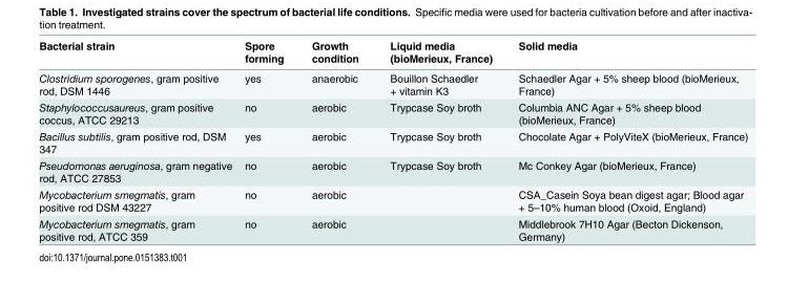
<table><thead><tr><td>Bacterial strain</td><td>Spore forming</td><td>Growth condition</td><td>Liquid media (bioMerieux, France)</td><td>Solid media</td></tr></thead><tbody><tr><td>Clostridium sporogenes, gram positive rod, DSM 1446</td><td>yes</td><td>anaerobic</td><td>Bouillon Schaedler + vitamin K3</td><td>Schaedler Agar + 5% sheep blood (bioMerieux, France)</td></tr><tr><td>Staphylococcusaureus, gram positive coccus, ATCC 29213</td><td>no</td><td>aerobic</td><td>Trypcase Soy broth</td><td>Columbia ANC Agar + 5% sheep blood (bioMerieux, France)</td></tr><tr><td>Bacillus subtilis, gram positive rod, DSM 347</td><td>yes</td><td>aerobic</td><td>Trypcase Soy broth</td><td>Chocolate Agar + PolyViteX (bioMerieux, France)</td></tr><tr><td>Pseudomonas aeruginosa, gram negative rod, ATCC 27853</td><td>no</td><td>aerobic</td><td>Trypcase Soy broth</td><td>Mc Conkey Agar (bioMerieux, France)</td></tr><tr><td>Mycobacterium smegmatis, gram positive rod DSM 43227</td><td>no</td><td>aerobic</td><td></td><td>CSA_Casein Soya bean digest agar; Blood agar + 5–10% human blood (Oxoid, England)</td></tr><tr><td>Mycobacterium smegmatis, gram positive rod, ATCC 359</td><td>no</td><td>aerobic</td><td></td><td>Middlebrook 7H10 Agar (Becton Dickenson, Germany)</td></tr></tbody></table>